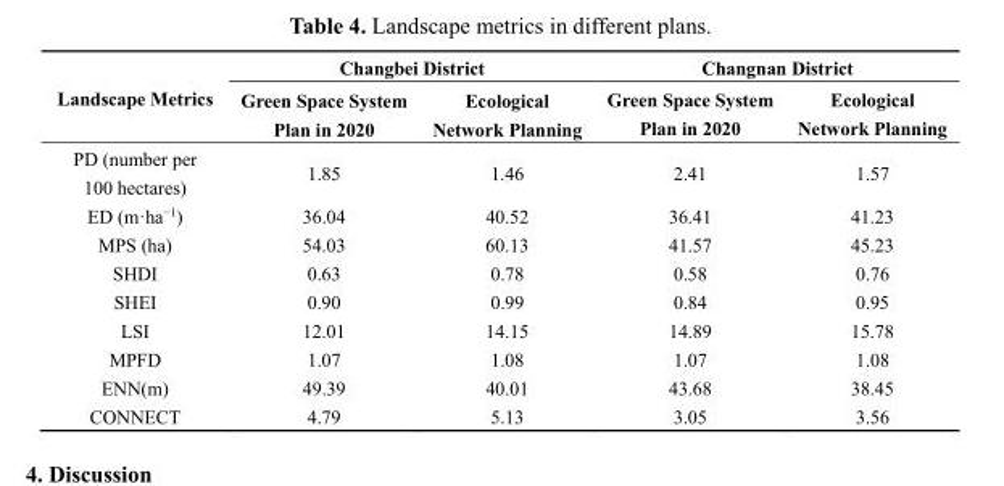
<table><thead><tr><td rowspan="2">Landscape Metrics</td><td colspan="2">Changbei District</td><td colspan="2">Changnan District</td></tr><tr><td>Green Space System Plan in 2020</td><td>Ecological Network Planning</td><td>Green Space System Plan in 2020</td><td>Ecological Network Planning</td></tr></thead><tbody><tr><td>PD (number per 100 hectares)</td><td>1.85</td><td>1.46</td><td>2.41</td><td>1.57</td></tr><tr><td>ED (m·ha<sup>−1</sup>)</td><td>36.04</td><td>40.52</td><td>36.41</td><td>41.23</td></tr><tr><td>MPS (ha)</td><td>54.03</td><td>60.13</td><td>41.57</td><td>45.23</td></tr><tr><td>SHDI</td><td>0.63</td><td>0.78</td><td>0.58</td><td>0.76</td></tr><tr><td>SHEI</td><td>0.90</td><td>0.99</td><td>0.84</td><td>0.95</td></tr><tr><td>LSI</td><td>12.01</td><td>14.15</td><td>14.89</td><td>15.78</td></tr><tr><td>MPFD</td><td>1.07</td><td>1.08</td><td>1.07</td><td>1.08</td></tr><tr><td>ENN(m)</td><td>49.39</td><td>40.01</td><td>43.68</td><td>38.45</td></tr><tr><td>CONNECT</td><td>4.79</td><td>5.13</td><td>3.05</td><td>3.56</td></tr></tbody></table>